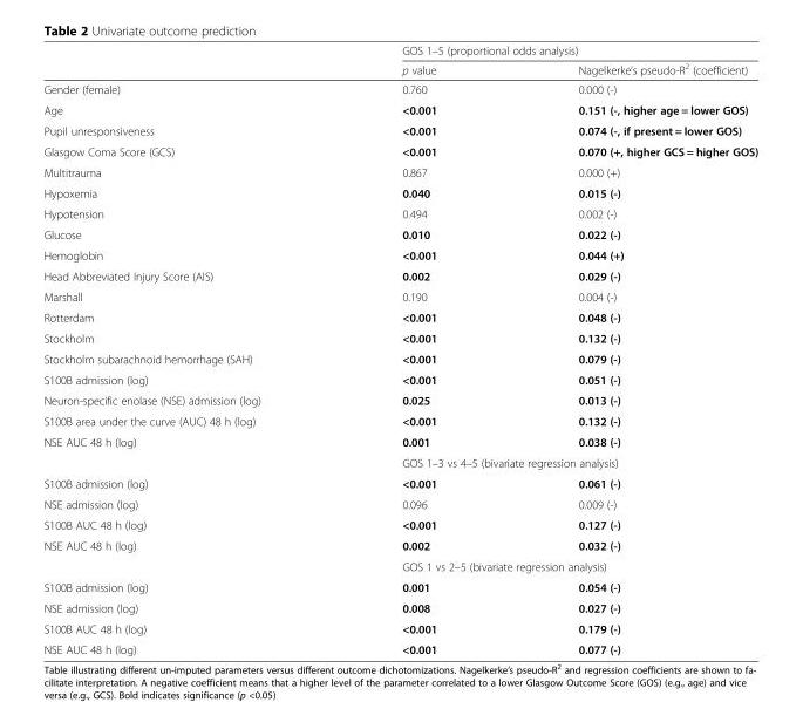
<table><thead><tr><td rowspan="2"></td><td colspan="2">GOS 1–5 (proportional odds analysis)</td></tr><tr><td>p value</td><td>Nagelkerke’s pseudo-R<sup>2</sup> (coefficient)</td></tr></thead><tbody><tr><td>Gender (female)</td><td>0.760</td><td>0.000 (-)</td></tr><tr><td>Age</td><td>&lt;0.001</td><td>0.151 (-, higher age = lower GOS)</td></tr><tr><td>Pupil unresponsiveness</td><td>&lt;0.001</td><td>0.074 (-, if present = lower GOS)</td></tr><tr><td>Glasgow Coma Score (GCS)</td><td>&lt;0.001</td><td>0.070 (+, higher GCS = higher GOS)</td></tr><tr><td>Multitrauma</td><td>0.867</td><td>0.000 (+)</td></tr><tr><td>Hypoxemia</td><td>0.040</td><td>0.015 (-)</td></tr><tr><td>Hypotension</td><td>0.494</td><td>0.002 (-)</td></tr><tr><td>Glucose</td><td>0.010</td><td>0.022 (-)</td></tr><tr><td>Hemoglobin</td><td>&lt;0.001</td><td>0.044 (+)</td></tr><tr><td>Head Abbreviated Injury Score (AIS)</td><td>0.002</td><td>0.029 (-)</td></tr><tr><td>Marshall</td><td>0.190</td><td>0.004 (-)</td></tr><tr><td>Rotterdam</td><td>&lt;0.001</td><td>0.048 (-)</td></tr><tr><td>Stockholm</td><td>&lt;0.001</td><td>0.132 (-)</td></tr><tr><td>Stockholm subarachnoid hemorrhage (SAH)</td><td>&lt;0.001</td><td>0.079 (-)</td></tr><tr><td>S100B admission (log)</td><td>&lt;0.001</td><td>0.051 (-)</td></tr><tr><td>Neuron-specific enolase (NSE) admission (log)</td><td>0.025</td><td>0.013 (-)</td></tr><tr><td>S100B area under the curve (AUC) 48 h (log)</td><td>&lt;0.001</td><td>0.132 (-)</td></tr><tr><td rowspan="2">NSE AUC 48 h (log)</td><td>0.001</td><td>0.038 (-)</td></tr><tr><td colspan="2">GOS 1–3 vs 4–5 (bivariate regression analysis)</td></tr><tr><td>S100B admission (log)</td><td>&lt;0.001</td><td>0.061 (-)</td></tr><tr><td>NSE admission (log)</td><td>0.096</td><td>0.009 (-)</td></tr><tr><td>S100B AUC 48 h (log)</td><td>&lt;0.001</td><td>0.127 (-)</td></tr><tr><td rowspan="2">NSE AUC 48 h (log)</td><td>0.002</td><td>0.032 (-)</td></tr><tr><td colspan="2">GOS 1 vs 2–5 (bivariate regression analysis)</td></tr><tr><td>S100B admission (log)</td><td>0.001</td><td>0.054 (-)</td></tr><tr><td>NSE admission (log)</td><td>0.008</td><td>0.027 (-)</td></tr><tr><td>S100B AUC 48 h (log)</td><td>&lt;0.001</td><td>0.179 (-)</td></tr><tr><td>NSE AUC 48 h (log)</td><td>&lt;0.001</td><td>0.077 (-)</td></tr></tbody></table>